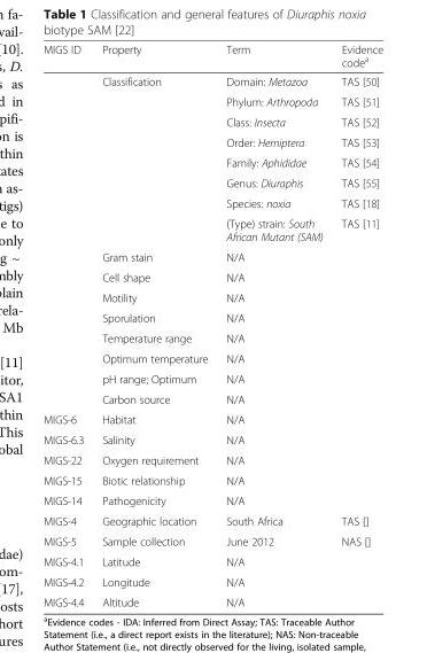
<table><thead><tr><td>MIGS ID</td><td>Property</td><td>Term</td><td>Evidence code<sup>a</sup></td></tr></thead><tbody><tr><td></td><td>Classification</td><td>Domain: Metazoa</td><td>TAS [50]</td></tr><tr><td></td><td></td><td>Phylum: Arthropoda</td><td>TAS [51]</td></tr><tr><td></td><td></td><td>Class: Insecta</td><td>TAS [52]</td></tr><tr><td></td><td></td><td>Order: Hemiptera</td><td>TAS [53]</td></tr><tr><td></td><td></td><td>Family: Aphididae</td><td>TAS [54]</td></tr><tr><td></td><td></td><td>Genus: Diuraphis</td><td>TAS [55]</td></tr><tr><td></td><td></td><td>Species: noxia</td><td>TAS [18]</td></tr><tr><td></td><td></td><td>(Type) strain: South African Mutant (SAM)</td><td>TAS [11]</td></tr><tr><td></td><td>Gram stain</td><td>N/A</td><td></td></tr><tr><td></td><td>Cell shape</td><td>N/A</td><td></td></tr><tr><td></td><td>Motility</td><td>N/A</td><td></td></tr><tr><td></td><td>Sporulation</td><td>N/A</td><td></td></tr><tr><td></td><td>Temperature range</td><td>N/A</td><td></td></tr><tr><td></td><td>Optimum temperature</td><td>N/A</td><td></td></tr><tr><td></td><td>pH range; Optimum</td><td>N/A</td><td></td></tr><tr><td></td><td>Carbon source</td><td>N/A</td><td></td></tr><tr><td>MIGS-6</td><td>Habitat</td><td>N/A</td><td></td></tr><tr><td>MIGS-6.3</td><td>Salinity</td><td>N/A</td><td></td></tr><tr><td>MIGS-22</td><td>Oxygen requirement</td><td>N/A</td><td></td></tr><tr><td>MIGS-15</td><td>Biotic relationship</td><td>N/A</td><td></td></tr><tr><td>MIGS-14</td><td>Pathogenicity</td><td>N/A</td><td></td></tr><tr><td>MIGS-4</td><td>Geographic location</td><td>South Africa</td><td>TAS []</td></tr><tr><td>MIGS-5</td><td>Sample collection</td><td>June 2012</td><td>NAS []</td></tr><tr><td>MIGS-4.1</td><td>Latitude</td><td>N/A</td><td></td></tr><tr><td>MIGS-4.2</td><td>Longitude</td><td>N/A</td><td></td></tr><tr><td>MIGS-4.4</td><td>Altitude</td><td>N/A</td><td></td></tr></tbody></table>